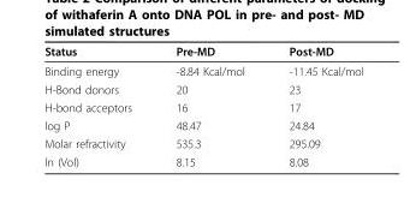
<table><thead><tr><td>Status</td><td>Pre-MD</td><td>Post-MD</td></tr></thead><tbody><tr><td>Binding energy</td><td>-8.84 Kcal/mol</td><td>-11.45 Kcal/mol</td></tr><tr><td>H-Bond donors</td><td>20</td><td>23</td></tr><tr><td>H-bond acceptors</td><td>16</td><td>17</td></tr><tr><td>log P</td><td>48.47</td><td>24.84</td></tr><tr><td>Molar refractivity</td><td>535.3</td><td>295.09</td></tr><tr><td>ln (Vol)</td><td>8.15</td><td>8.08</td></tr></tbody></table>